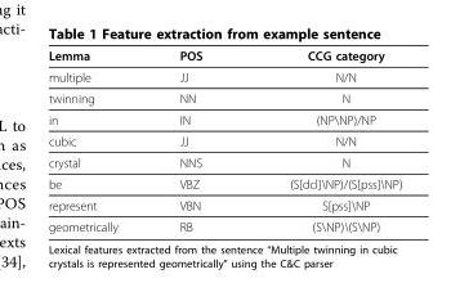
<table><thead><tr><td>Lemma</td><td>POS</td><td>CCG category</td></tr></thead><tbody><tr><td>multiple</td><td>JJ</td><td>N/N</td></tr><tr><td>twinning</td><td>NN</td><td>N</td></tr><tr><td>in</td><td>IN</td><td>(NP\NP)/NP</td></tr><tr><td>cubic</td><td>JJ</td><td>N/N</td></tr><tr><td>crystal</td><td>NNS</td><td>N</td></tr><tr><td>be</td><td>VBZ</td><td>(S[dcl]\NP)/(S[pss]\NP)</td></tr><tr><td>represent</td><td>VBN</td><td>S[pss]\NP</td></tr><tr><td>geometrically</td><td>RB</td><td>(S\NP)\(S\NP)</td></tr></tbody></table>